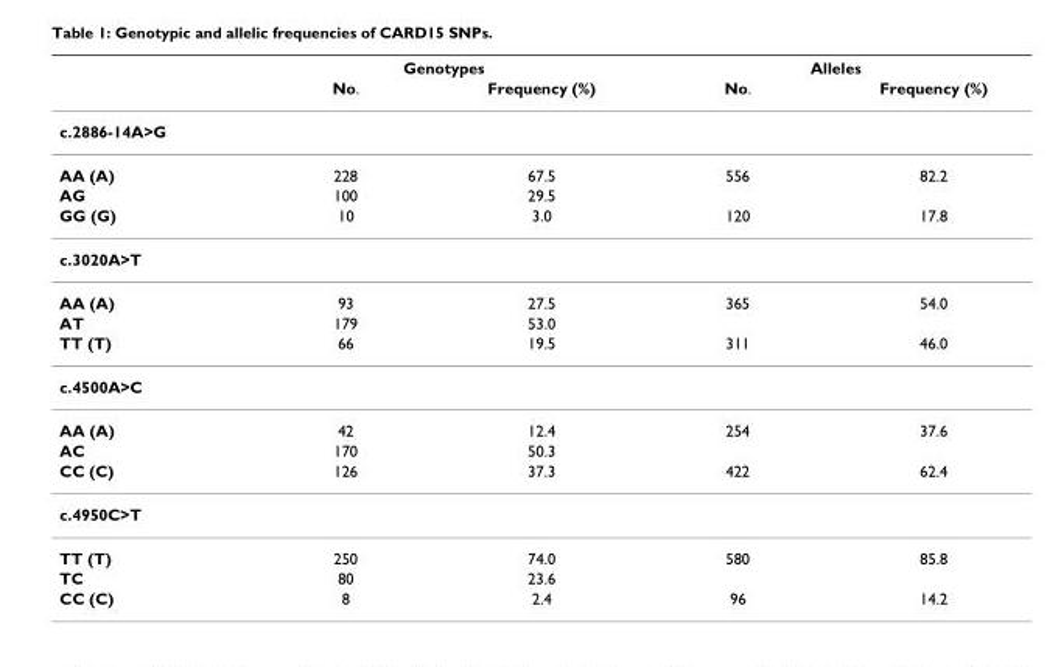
<table><thead><tr><td rowspan="2"></td><td colspan="2">Genotypes</td><td colspan="2">Alleles</td></tr><tr><td>No.</td><td>Frequency (%)</td><td>No.</td><td>Frequency (%)</td></tr></thead><tbody><tr><td colspan="5">c.2886-14A&gt;G</td></tr><tr><td>AA (A)</td><td>228</td><td>67.5</td><td>556</td><td>82.2</td></tr><tr><td>AG</td><td>100</td><td>29.5</td><td></td><td></td></tr><tr><td>GG (G)</td><td>10</td><td>3.0</td><td>120</td><td>17.8</td></tr><tr><td colspan="5">c.3020A&gt;T</td></tr><tr><td>AA (A)</td><td>93</td><td>27.5</td><td>365</td><td>54.0</td></tr><tr><td>AT</td><td>179</td><td>53.0</td><td></td><td></td></tr><tr><td>TT (T)</td><td>66</td><td>19.5</td><td>311</td><td>46.0</td></tr><tr><td colspan="5">c.4500A&gt;C</td></tr><tr><td>AA (A)</td><td>42</td><td>12.4</td><td>254</td><td>37.6</td></tr><tr><td>AC</td><td>170</td><td>50.3</td><td></td><td></td></tr><tr><td>CC (C)</td><td>126</td><td>37.3</td><td>422</td><td>62.4</td></tr><tr><td colspan="5">c.4950C&gt;T</td></tr><tr><td>TT (T)</td><td>250</td><td>74.0</td><td>580</td><td>85.8</td></tr><tr><td>TC</td><td>80</td><td>23.6</td><td></td><td></td></tr><tr><td>CC (C)</td><td>8</td><td>2.4</td><td>96</td><td>14.2</td></tr></tbody></table>